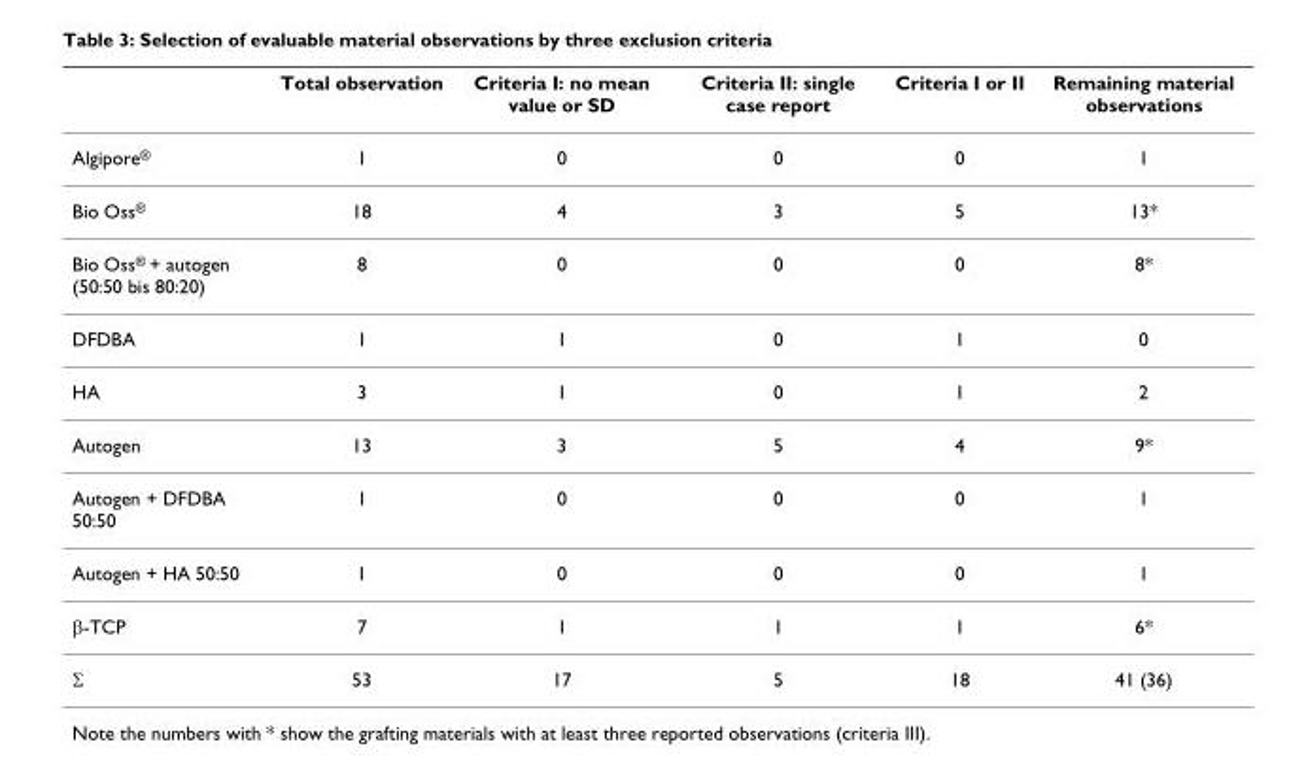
<table><thead><tr><td></td><td>Total observation</td><td>Criteria I: no mean value or SD</td><td>Criteria II: single case report</td><td>Criteria I or II</td><td>Remaining material observations</td></tr></thead><tbody><tr><td>Algipore<sup>®</sup></td><td>1</td><td>0</td><td>0</td><td>0</td><td>1</td></tr><tr><td>Bio Oss<sup>®</sup></td><td>18</td><td>4</td><td>3</td><td>5</td><td>13*</td></tr><tr><td>Bio Oss<sup>®</sup> + autogen (50:50 bis 80:20)</td><td>8</td><td>0</td><td>0</td><td>0</td><td>8*</td></tr><tr><td>DFDBA</td><td>1</td><td>1</td><td>0</td><td>1</td><td>0</td></tr><tr><td>HA</td><td>3</td><td>1</td><td>0</td><td>1</td><td>2</td></tr><tr><td>Autogen</td><td>13</td><td>3</td><td>5</td><td>4</td><td>9*</td></tr><tr><td>Autogen + DFDBA 50:50</td><td>1</td><td>0</td><td>0</td><td>0</td><td>1</td></tr><tr><td>Autogen + HA 50:50</td><td>1</td><td>0</td><td>0</td><td>0</td><td>1</td></tr><tr><td>β-TCP</td><td>7</td><td>1</td><td>1</td><td>1</td><td>6*</td></tr><tr><td>Σ</td><td>53</td><td>17</td><td>5</td><td>18</td><td>41 (36)</td></tr></tbody></table>